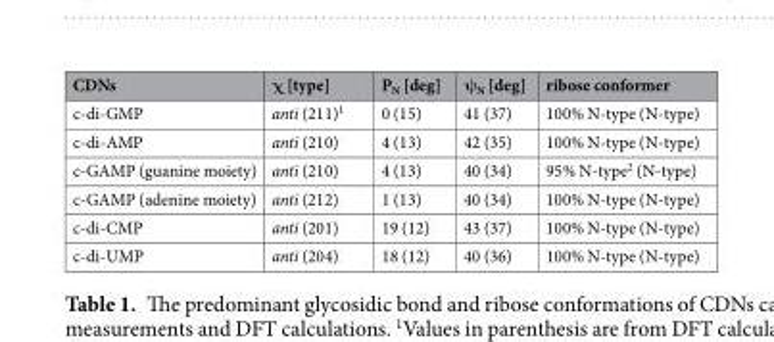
<table><thead><tr><td>CDNs</td><td>χ [type]</td><td>P<sub>N</sub> [deg]</td><td>ψ<sub>N</sub> [deg]</td><td>ribose conformer</td></tr></thead><tbody><tr><td>c-di-GMP</td><td>anti (211)<sup>1</sup></td><td>0 (15)</td><td>41 (37)</td><td>100% N-type (N-type)</td></tr><tr><td>c-di-AMP</td><td>anti (210)</td><td>4 (13)</td><td>42 (35)</td><td>100% N-type (N-type)</td></tr><tr><td>c-GAMP (guanine moiety)</td><td>anti (210)</td><td>4 (13)</td><td>40 (34)</td><td>95% N-type<sup>2</sup> (N-type)</td></tr><tr><td>c-GAMP (adenine moiety)</td><td>anti (212)</td><td>1 (13)</td><td>40 (34)</td><td>100% N-type (N-type)</td></tr><tr><td>c-di-CMP</td><td>anti (201)</td><td>19 (12)</td><td>43 (37)</td><td>100% N-type (N-type)</td></tr><tr><td>c-di-UMP</td><td>anti (204)</td><td>18 (12)</td><td>40 (36)</td><td>100% N-type (N-type)</td></tr></tbody></table>